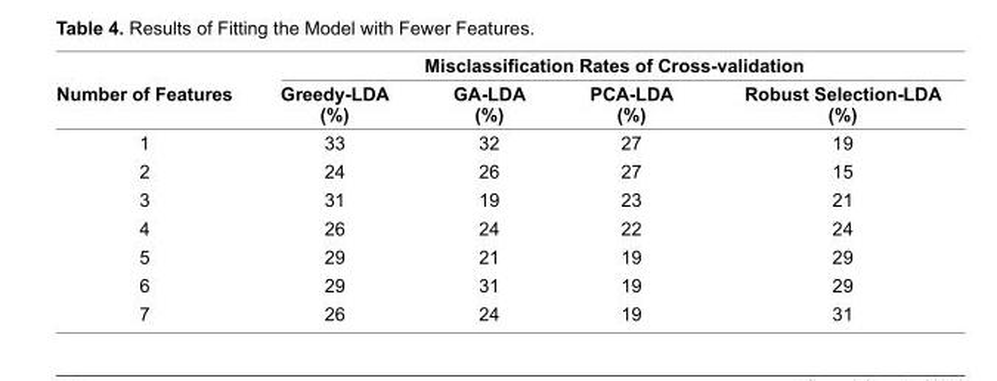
<table><thead><tr><td rowspan="2">Number of Features</td><td colspan="4">Misclassifi cation Rates of Cross-validation</td></tr><tr><td>Greedy-LDA (%)</td><td>GA-LDA (%)</td><td>PCA-LDA (%)</td><td>Robust Selection-LDA (%)</td></tr></thead><tbody><tr><td>1</td><td>33</td><td>32</td><td>27</td><td>19</td></tr><tr><td>2</td><td>24</td><td>26</td><td>27</td><td>15</td></tr><tr><td>3</td><td>31</td><td>19</td><td>23</td><td>21</td></tr><tr><td>4</td><td>26</td><td>24</td><td>22</td><td>24</td></tr><tr><td>5</td><td>29</td><td>21</td><td>19</td><td>29</td></tr><tr><td>6</td><td>29</td><td>31</td><td>19</td><td>29</td></tr><tr><td>7</td><td>26</td><td>24</td><td>19</td><td>31</td></tr></tbody></table>